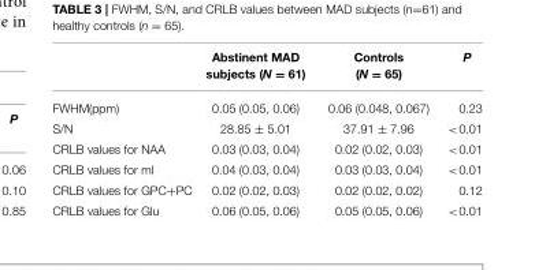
<table><thead><tr><td></td><td>Abstinent MAD subjects (N = 61)</td><td>Controls (N = 65)</td><td>P</td></tr></thead><tbody><tr><td>FWHM(ppm)</td><td>0.05 (0.05, 0.06)</td><td>0.06 (0.048, 0.067)</td><td>0.23</td></tr><tr><td>S/N</td><td>28.85 ± 5.01</td><td>37.91 ± 7.96</td><td>&lt;0.01</td></tr><tr><td>CRLB values for NAA</td><td>0.03 (0.03, 0.04)</td><td>0.02 (0.02, 0.03)</td><td>&lt;0.01</td></tr><tr><td>CRLB values for mI</td><td>0.04 (0.03, 0.04)</td><td>0.03 (0.03, 0.04)</td><td>&lt;0.01</td></tr><tr><td>CRLB values for GPC+PC</td><td>0.02 (0.02, 0.03)</td><td>0.02 (0.02, 0.02)</td><td>0.12</td></tr><tr><td>CRLB values for Glu</td><td>0.06 (0.05, 0.06)</td><td>0.05 (0.05, 0.06)</td><td>&lt;0.01</td></tr></tbody></table>